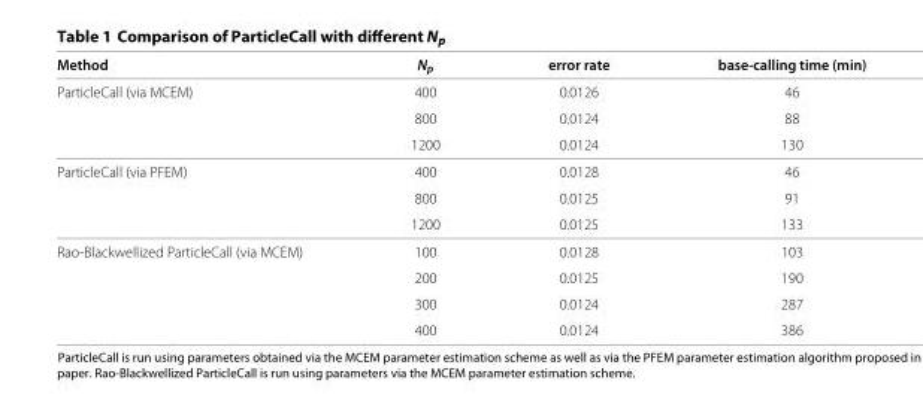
<table><thead><tr><td>Method</td><td><sub>Np</sub></td><td>error rate</td><td>base-calling time (min)</td></tr></thead><tbody><tr><td rowspan="3">ParticleCall (via MCEM)</td><td>400</td><td>0.0126</td><td>46</td></tr><tr><td>800</td><td>0.0124</td><td>88</td></tr><tr><td>1200</td><td>0.0124</td><td>130</td></tr><tr><td rowspan="3">ParticleCall (via PFEM)</td><td>400</td><td>0.0128</td><td>46</td></tr><tr><td>800</td><td>0.0125</td><td>91</td></tr><tr><td>1200</td><td>0.0125</td><td>133</td></tr><tr><td rowspan="4">Rao-Blackwellized ParticleCall (via MCEM)</td><td>100</td><td>0.0128</td><td>103</td></tr><tr><td>200</td><td>0.0125</td><td>190</td></tr><tr><td>300</td><td>0.0124</td><td>287</td></tr><tr><td>400</td><td>0.0124</td><td>386</td></tr></tbody></table>